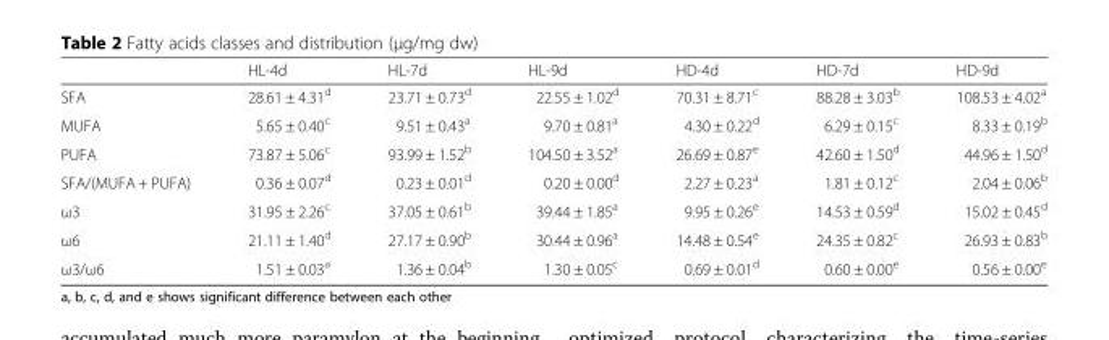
<table><thead><tr><td></td><td>HL-4d</td><td>HL-7d</td><td>HL-9d</td><td>HD-4d</td><td>HD-7d</td><td>HD-9d</td></tr></thead><tbody><tr><td>SFA</td><td>28.61 ± 4.31<sup>d</sup></td><td>23.71 ± 0.73<sup>d</sup></td><td>22.55 ± 1.02<sup>d</sup></td><td>70.31 ± 8.71<sup>c</sup></td><td>88.28 ± 3.03<sup>b</sup></td><td>108.53 ± 4.02<sup>a</sup></td></tr><tr><td>MUFA</td><td>5.65 ± 0.40<sup>c</sup></td><td>9.51 ± 0.43<sup>a</sup></td><td>9.70 ± 0.81<sup>a</sup></td><td>4.30 ± 0.22<sup>d</sup></td><td>6.29 ± 0.15<sup>c</sup></td><td>8.33 ± 0.19<sup>b</sup></td></tr><tr><td>PUFA</td><td>73.87 ± 5.06<sup>c</sup></td><td>93.99 ± 1.52<sup>b</sup></td><td>104.50 ± 3.52<sup>a</sup></td><td>26.69 ± 0.87<sup>e</sup></td><td>42.60 ± 1.50<sup>d</sup></td><td>44.96 ± 1.50<sup>d</sup></td></tr><tr><td>SFA/(MUFA + PUFA)</td><td>0.36 ± 0.07<sup>d</sup></td><td>0.23 ± 0.01<sup>d</sup></td><td>0.20 ± 0.00<sup>d</sup></td><td>2.27 ± 0.23<sup>a</sup></td><td>1.81 ± 0.12<sup>c</sup></td><td>2.04 ± 0.06<sup>b</sup></td></tr><tr><td>ω3</td><td>31.95 ± 2.26<sup>c</sup></td><td>37.05 ± 0.61<sup>b</sup></td><td>39.44 ± 1.85<sup>a</sup></td><td>9.95 ± 0.26<sup>e</sup></td><td>14.53 ± 0.59<sup>d</sup></td><td>15.02 ± 0.45<sup>d</sup></td></tr><tr><td>ω6</td><td>21.11 ± 1.40<sup>d</sup></td><td>27.17 ± 0.90<sup>b</sup></td><td>30.44 ± 0.96<sup>a</sup></td><td>14.48 ± 0.54<sup>e</sup></td><td>24.35 ± 0.82<sup>c</sup></td><td>26.93 ± 0.83<sup>b</sup></td></tr><tr><td>ω3/ω6</td><td>1.51 ± 0.03<sup>a</sup></td><td>1.36 ± 0.04<sup>b</sup></td><td>1.30 ± 0.05<sup>c</sup></td><td>0.69 ± 0.01<sup>d</sup></td><td>0.60 ± 0.00<sup>e</sup></td><td>0.56 ± 0.00<sup>e</sup></td></tr></tbody></table>